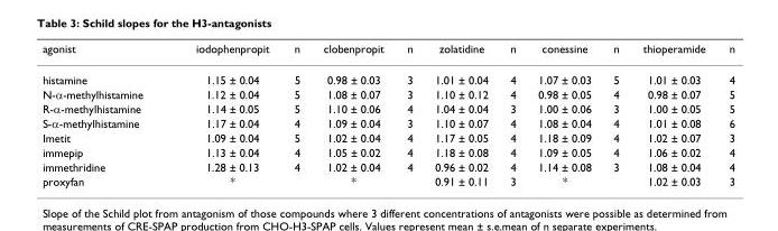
<table><thead><tr><td>agonist</td><td>iodophenpropit</td><td>n</td><td>clobenpropit</td><td>n</td><td>zolatidine</td><td>n</td><td>conessine</td><td>n</td><td>thioperamide</td><td>n</td></tr></thead><tbody><tr><td>histamine</td><td>1.15 ± 0.04</td><td>5</td><td>0.98 ± 0.03</td><td>3</td><td>1.01 ± 0.04</td><td>4</td><td>1.07 ± 0.03</td><td>5</td><td>1.01 ± 0.03</td><td>4</td></tr><tr><td>N-α-methylhistamine</td><td>1.12 ± 0.04</td><td>5</td><td>1.08 ± 0.07</td><td>3</td><td>1.10 ± 0.12</td><td>4</td><td>0.98 ± 0.05</td><td>4</td><td>0.98 ± 0.07</td><td>5</td></tr><tr><td>R-α-methylhistamine</td><td>1.14 ± 0.05</td><td>5</td><td>1.10 ± 0.06</td><td>4</td><td>1.04 ± 0.04</td><td>3</td><td>1.00 ± 0.06</td><td>3</td><td>1.00 ± 0.05</td><td>5</td></tr><tr><td>S-α-methylhistamine</td><td>1.17 ± 0.04</td><td>4</td><td>1.09 ± 0.04</td><td>3</td><td>1.10 ± 0.07</td><td>4</td><td>1.08 ± 0.04</td><td>4</td><td>1.01 ± 0.08</td><td>6</td></tr><tr><td>Imetit</td><td>1.09 ± 0.04</td><td>5</td><td>1.02 ± 0.04</td><td>4</td><td>1.17 ± 0.05</td><td>4</td><td>1.18 ± 0.09</td><td>4</td><td>1.02 ± 0.07</td><td>3</td></tr><tr><td>immepip</td><td>1.13 ± 0.04</td><td>4</td><td>1.05 ± 0.02</td><td>4</td><td>1.18 ± 0.08</td><td>4</td><td>1.09 ± 0.05</td><td>4</td><td>1.06 ± 0.02</td><td>4</td></tr><tr><td>immethridine</td><td>1.28 ± 0.13</td><td>4</td><td>1.02 ± 0.04</td><td>4</td><td>0.96 ± 0.02</td><td>4</td><td>1.14 ± 0.08</td><td>3</td><td>1.08 ± 0.04</td><td>4</td></tr><tr><td>proxyfan</td><td>*</td><td></td><td>*</td><td></td><td>0.91 ± 0.11</td><td>3</td><td>*</td><td></td><td>1.02 ± 0.03</td><td>3</td></tr></tbody></table>